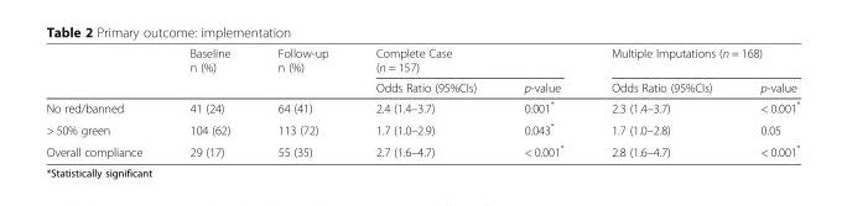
<table><thead><tr><td rowspan="2"></td><td rowspan="2">Baseline n (%)</td><td rowspan="2">Follow-up n (%)</td><td colspan="2">Complete Case (n = 157)</td><td colspan="2">Multiple Imputations (n = 168)</td></tr><tr><td>Odds Ratio (95%CIs)</td><td>p-value</td><td>Odds Ratio (95%CIs)</td><td>p-value</td></tr></thead><tbody><tr><td>No red/banned</td><td>41 (24)</td><td>64 (41)</td><td>2.4 (1.4–3.7)</td><td>0.001*</td><td>2.3 (1.4–3.7)</td><td>&lt; 0.001*</td></tr><tr><td>&gt; 50% green</td><td>104 (62)</td><td>113 (72)</td><td>1.7 (1.0–2.9)</td><td>0.043*</td><td>1.7 (1.0–2.8)</td><td>0.05</td></tr><tr><td>Overall compliance</td><td>29 (17)</td><td>55 (35)</td><td>2.7 (1.6–4.7)</td><td>&lt; 0.001*</td><td>2.8 (1.6–4.7)</td><td>&lt; 0.001*</td></tr></tbody></table>